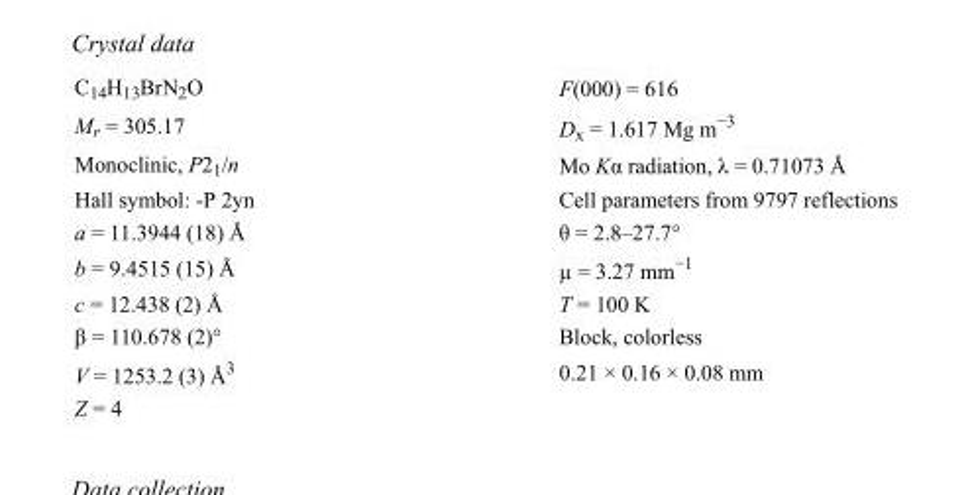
<table><tbody><tr><td>C<sub>14</sub>H<sub>13</sub>BrN<sub>2</sub>O</td><td>F(000) = 616</td></tr><tr><td>M<sub>r</sub> = 305.17</td><td>D<sub>x</sub> = 1.617 Mg m<sup>−3</sup></td></tr><tr><td>Monoclinic, P2<sub>1</sub>/n</td><td>Mo Kα radiation, λ = 0.71073 Å</td></tr><tr><td>Hall symbol: -P 2yn</td><td>Cell parameters from 9797 reflections</td></tr><tr><td>a = 11.3944 (18) Å</td><td>θ = 2.8–27.7°</td></tr><tr><td>b = 9.4515 (15) Å</td><td>µ = 3.27 mm<sup>−1</sup></td></tr><tr><td>c = 12.438 (2) Å</td><td>T = 100 K</td></tr><tr><td>β = 110.678 (2)°</td><td>Block, colorless</td></tr><tr><td>V = 1253.2 (3) Å<sup>3</sup></td><td>0.21 × 0.16 × 0.08 mm</td></tr><tr><td>Z = 4</td><td></td></tr></tbody></table>